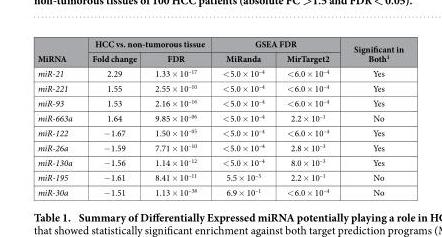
<table><thead><tr><td rowspan="2">MiRNA</td><td colspan="2">HCC vs. non-tumorous tissue</td><td colspan="2">GSEA FDR</td><td rowspan="2">Significant in Both<sup>1</sup></td></tr><tr><td>Fold change</td><td>FDR</td><td>MiRanda</td><td>MirTarget2</td></tr></thead><tbody><tr><td>miR-21</td><td>2.29</td><td>1.33 × 10<sup>–17</sup></td><td>&lt; 5.0 × 10<sup>–4</sup></td><td>&lt; 6.0 × 10<sup>–4</sup></td><td>Yes</td></tr><tr><td>miR-221</td><td>1.55</td><td>2.55 × 10<sup>–10</sup></td><td>&lt; 5.0 × 10<sup>–4</sup></td><td>&lt; 6.0 × 10<sup>–4</sup></td><td>Yes</td></tr><tr><td>miR-93</td><td>1.53</td><td>2.16 × 10<sup>–16</sup></td><td>&lt; 5.0 × 10<sup>–4</sup></td><td>&lt; 6.0 × 10<sup>–4</sup></td><td>Yes</td></tr><tr><td>miR-663a</td><td>1.64</td><td>9.85 × 10<sup>–06</sup></td><td>&lt; 5.0 × 10<sup>–4</sup></td><td>2.2 × 10–1</td><td>No</td></tr><tr><td>miR-122</td><td>− 1.67</td><td>1.50 × 10<sup>–05</sup></td><td>&lt; 5.0 × 10<sup>–4</sup></td><td>&lt; 6.0 × 10<sup>–4</sup></td><td>Yes</td></tr><tr><td>miR-26a</td><td>− 1.59</td><td>7.71 × 10<sup>–10</sup></td><td>&lt; 5.0 × 10<sup>–4</sup></td><td>2.8 × 10<sup>–3</sup></td><td>Yes</td></tr><tr><td>miR-130a</td><td>− 1.56</td><td>1.14 × 10<sup>–12</sup></td><td>&lt; 5.0 × 10<sup>–4</sup></td><td>8.0 × 10<sup>–3</sup></td><td>Yes</td></tr><tr><td>miR-195</td><td>− 1.61</td><td>8.41 × 10<sup>–11</sup></td><td>5.5 × 10<sup>–3</sup></td><td>2.2 × 10–1</td><td>No</td></tr><tr><td>miR-30a</td><td>− 1.51</td><td>1.13 × 10<sup>–38</sup></td><td>6.9 × 10<sup>–1</sup></td><td>&lt; 6.0 × 10<sup>–4</sup></td><td>No</td></tr></tbody></table>